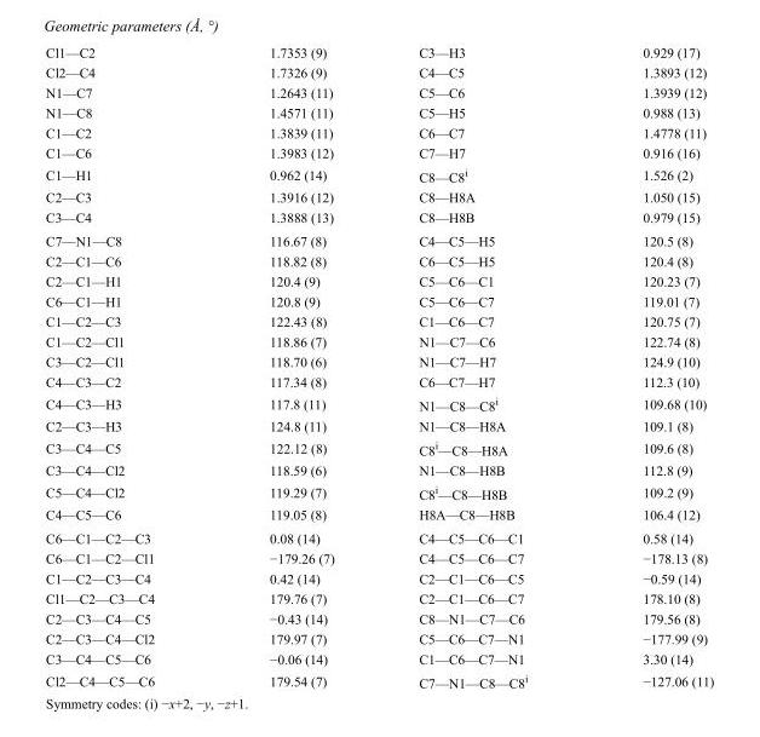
<table><tbody><tr><td>Cl1—C2</td><td>1.7353 (9)</td><td>C3—H3</td><td>0.929 (17)</td></tr><tr><td>Cl2—C4</td><td>1.7326 (9)</td><td>C4—C5</td><td>1.3893 (12)</td></tr><tr><td>N1—C7</td><td>1.2643 (11)</td><td>C5—C6</td><td>1.3939 (12)</td></tr><tr><td>N1—C8</td><td>1.4571 (11)</td><td>C5—H5</td><td>0.988 (13)</td></tr><tr><td>C1—C2</td><td>1.3839 (11)</td><td>C6—C7</td><td>1.4778 (11)</td></tr><tr><td>C1—C6</td><td>1.3983 (12)</td><td>C7—H7</td><td>0.916 (16)</td></tr><tr><td>C1—H1</td><td>0.962 (14)</td><td>C8—C8<sup>i</sup></td><td>1.526 (2)</td></tr><tr><td>C2—C3</td><td>1.3916 (12)</td><td>C8—H8A</td><td>1.050 (15)</td></tr><tr><td>C3—C4</td><td>1.3888 (13)</td><td>C8—H8B</td><td>0.979 (15)</td></tr><tr><td>C7—N1—C8</td><td>116.67 (8)</td><td>C4—C5—H5</td><td>120.5 (8)</td></tr><tr><td>C2—C1—C6</td><td>118.82 (8)</td><td>C6—C5—H5</td><td>120.4 (8)</td></tr><tr><td>C2—C1—H1</td><td>120.4 (9)</td><td>C5—C6—C1</td><td>120.23 (7)</td></tr><tr><td>C6—C1—H1</td><td>120.8 (9)</td><td>C5—C6—C7</td><td>119.01 (7)</td></tr><tr><td>C1—C2—C3</td><td>122.43 (8)</td><td>C1—C6—C7</td><td>120.75 (7)</td></tr><tr><td>C1—C2—Cl1</td><td>118.86 (7)</td><td>N1—C7—C6</td><td>122.74 (8)</td></tr><tr><td>C3—C2—Cl1</td><td>118.70 (6)</td><td>N1—C7—H7</td><td>124.9 (10)</td></tr><tr><td>C4—C3—C2</td><td>117.34 (8)</td><td>C6—C7—H7</td><td>112.3 (10)</td></tr><tr><td>C4—C3—H3</td><td>117.8 (11)</td><td>N1—C8—C8<sup>i</sup></td><td>109.68 (10)</td></tr><tr><td>C2—C3—H3</td><td>124.8 (11)</td><td>N1—C8—H8A</td><td>109.1 (8)</td></tr><tr><td>C3—C4—C5</td><td>122.12 (8)</td><td>C8<sup>i</sup>—C8—H8A</td><td>109.6 (8)</td></tr><tr><td>C3—C4—Cl2</td><td>118.59 (6)</td><td>N1—C8—H8B</td><td>112.8 (9)</td></tr><tr><td>C5—C4—Cl2</td><td>119.29 (7)</td><td>C8<sup>i</sup>—C8—H8B</td><td>109.2 (9)</td></tr><tr><td>C4—C5—C6</td><td>119.05 (8)</td><td>H8A—C8—H8B</td><td>106.4 (12)</td></tr><tr><td>C6—C1—C2—C3</td><td>0.08 (14)</td><td>C4—C5—C6—C1</td><td>0.58 (14)</td></tr><tr><td>C6—C1—C2—Cl1</td><td>−179.26 (7)</td><td>C4—C5—C6—C7</td><td>−178.13 (8)</td></tr><tr><td>C1—C2—C3—C4</td><td>0.42 (14)</td><td>C2—C1—C6—C5</td><td>−0.59 (14)</td></tr><tr><td>Cl1—C2—C3—C4</td><td>179.76 (7)</td><td>C2—C1—C6—C7</td><td>178.10 (8)</td></tr><tr><td>C2—C3—C4—C5</td><td>−0.43 (14)</td><td>C8—N1—C7—C6</td><td>179.56 (8)</td></tr><tr><td>C2—C3—C4—Cl2</td><td>179.97 (7)</td><td>C5—C6—C7—N1</td><td>−177.99 (9)</td></tr><tr><td>C3—C4—C5—C6</td><td>−0.06 (14)</td><td>C1—C6—C7—N1</td><td>3.30 (14)</td></tr><tr><td>Cl2—C4—C5—C6</td><td>179.54 (7)</td><td>C7—N1—C8—C8<sup>i</sup></td><td>−127.06 (11)</td></tr></tbody></table>